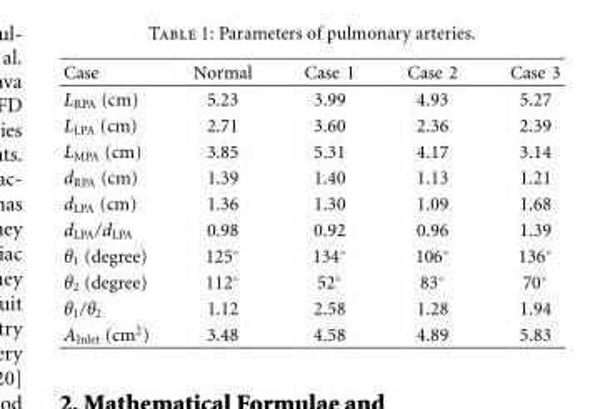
<table><thead><tr><td>Case</td><td>Normal</td><td>Case 1</td><td>Case 2</td><td>Case</td></tr></thead><tbody><tr><td>L<sub>RPA</sub> (cm)</td><td>5.23</td><td>3.99</td><td>4.93</td><td>5.27</td></tr><tr><td>L<sub>LPA</sub> (cm)</td><td>2.71</td><td>3.60</td><td>2.36</td><td>2.39</td></tr><tr><td>L<sub>MPA</sub> (cm)</td><td>3.85</td><td>5.31</td><td>4.17</td><td>3.14</td></tr><tr><td>d<sub>RPA</sub> (cm)</td><td>1.39</td><td>1.40</td><td>1.13</td><td>1.21</td></tr><tr><td>d<sub>LPA</sub> (cm)</td><td>1.36</td><td>1.30</td><td>1.09</td><td>1.68</td></tr><tr><td>d<sub>LPA</sub>/d<sub>LPA</sub></td><td>0.98</td><td>0.92</td><td>0.96</td><td>1.39</td></tr><tr><td>θ<sub>1</sub> (degree)</td><td>125◦</td><td>134◦</td><td>106◦</td><td>136◦</td></tr><tr><td>θ<sub>2</sub> (degree)</td><td>112◦</td><td>52◦</td><td>83◦</td><td>70◦</td></tr><tr><td>θ<sub>1</sub>/θ<sub>2</sub></td><td>1.12</td><td>2.58</td><td>1.28</td><td>1.94</td></tr><tr><td>A<sub>Inlet</sub> (cm<sup>2</sup>)</td><td>3.48</td><td>4.58</td><td>4.89</td><td>5.83</td></tr></tbody></table>